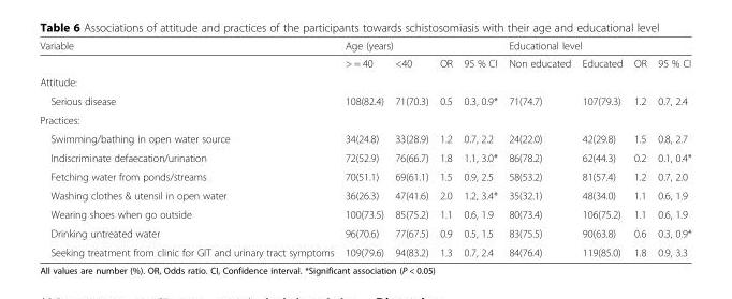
<table><thead><tr><td rowspan="2">Variable</td><td colspan="4">Age (years)</td><td colspan="4">Educational level</td></tr><tr><td>&gt; = 40</td><td>&lt;40</td><td>OR</td><td>95 % CI</td><td>Non educated</td><td>Educated</td><td>OR</td><td>95 % CI</td></tr></thead><tbody><tr><td colspan="9">Attitude:</td></tr><tr><td>Serious disease</td><td>108(82.4)</td><td>71(70.3)</td><td>0.5</td><td>0.3, 0.9*</td><td>71(74.7)</td><td>107(79.3)</td><td>1.2</td><td>0.7, 2.4</td></tr><tr><td colspan="9">Practices:</td></tr><tr><td>Swimming/bathing in open water source</td><td>34(24.8)</td><td>33(28.9)</td><td>1.2</td><td>0.7, 2.2</td><td>24(22.0)</td><td>42(29.8)</td><td>1.5</td><td>0.8, 2.7</td></tr><tr><td>Indiscriminate defaecation/urination</td><td>72(52.9)</td><td>76(66.7)</td><td>1.8</td><td>1.1, 3.0*</td><td>86(78.2)</td><td>62(44.3)</td><td>0.2</td><td>0.1, 0.4*</td></tr><tr><td>Fetching water from ponds/streams</td><td>70(51.1)</td><td>69(61.1)</td><td>1.5</td><td>0.9, 2.5</td><td>58(53.2)</td><td>81(57.4)</td><td>1.2</td><td>0.7, 2.0</td></tr><tr><td>Washing clothes &amp; utensil in open water</td><td>36(26.3)</td><td>47(41.6)</td><td>2.0</td><td>1.2, 3.4*</td><td>35(32.1)</td><td>48(34.0)</td><td>1.1</td><td>0.6, 1.9</td></tr><tr><td>Wearing shoes when go outside</td><td>100(73.5)</td><td>85(75.2)</td><td>1.1</td><td>0.6, 1.9</td><td>80(73.4)</td><td>106(75.2)</td><td>1.1</td><td>0.6, 1.9</td></tr><tr><td>Drinking untreated water</td><td>96(70.6)</td><td>77(67.5)</td><td>0.9</td><td>0.5, 1.5</td><td>83(75.5)</td><td>90(63.8)</td><td>0.6</td><td>0.3, 0.9*</td></tr><tr><td>Seeking treatment from clinic for GIT and urinary tract symptoms</td><td>109(79.6)</td><td>94(83.2)</td><td>1.3</td><td>0.7, 2.4</td><td>84(76.4)</td><td>119(85.0)</td><td>1.8</td><td>0.9, 3.3</td></tr></tbody></table>